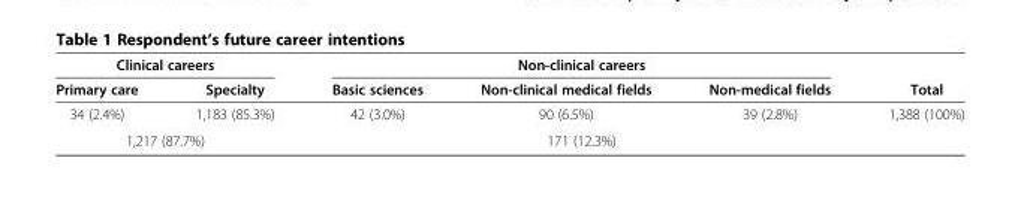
<table><thead><tr><td colspan="2">Clinical careers</td><td colspan="3">Non-clinical careers</td><td rowspan="2">Total</td></tr><tr><td>Primary care</td><td>Specialty</td><td>Basic sciences</td><td>Non-clinical medical fields</td><td>Non-medical fields</td></tr></thead><tbody><tr><td>34 (2.4%)</td><td>1,183 (85.3%)</td><td>42 (3.0%)</td><td>90 (6.5%)</td><td>39 (2.8%)</td><td rowspan="2">1,388 (100%)</td></tr><tr><td colspan="2">1,217 (87.7%)</td><td colspan="3">171 (12.3%)</td></tr></tbody></table>